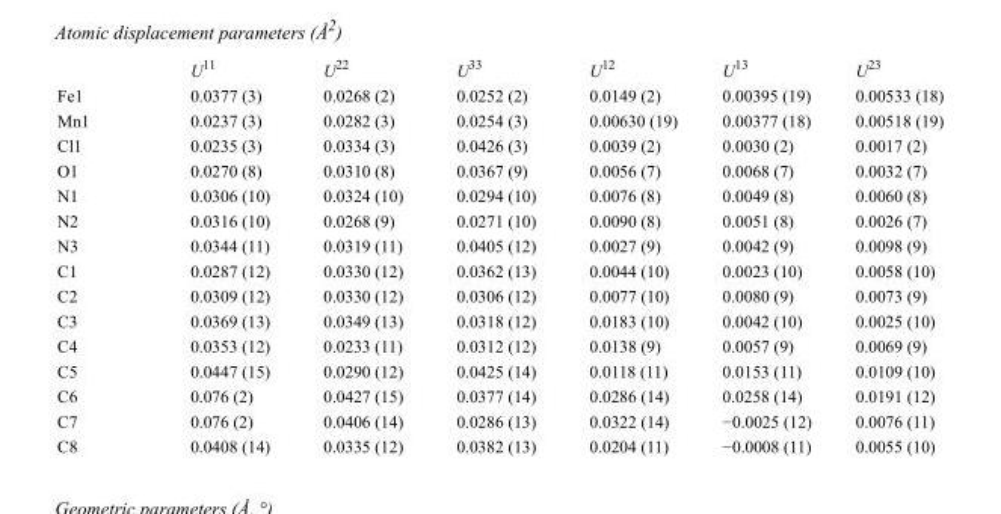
<table><thead><tr><td></td><td>U<sup>11</sup></td><td>U<sup>22</sup></td><td>U<sup>33</sup></td><td>U<sup>12</sup></td><td>U<sup>13</sup></td><td>U<sup>23</sup></td></tr></thead><tbody><tr><td>Fe1</td><td>0.0377 (3)</td><td>0.0268 (2)</td><td>0.0252 (2)</td><td>0.0149 (2)</td><td>0.00395 (19)</td><td>0.00533 (18)</td></tr><tr><td>Mn1</td><td>0.0237 (3)</td><td>0.0282 (3)</td><td>0.0254 (3)</td><td>0.00630 (19)</td><td>0.00377 (18)</td><td>0.00518 (19)</td></tr><tr><td>Cl1</td><td>0.0235 (3)</td><td>0.0334 (3)</td><td>0.0426 (3)</td><td>0.0039 (2)</td><td>0.0030 (2)</td><td>0.0017 (2)</td></tr><tr><td>O1</td><td>0.0270 (8)</td><td>0.0310 (8)</td><td>0.0367 (9)</td><td>0.0056 (7)</td><td>0.0068 (7)</td><td>0.0032 (7)</td></tr><tr><td>N1</td><td>0.0306 (10)</td><td>0.0324 (10)</td><td>0.0294 (10)</td><td>0.0076 (8)</td><td>0.0049 (8)</td><td>0.0060 (8)</td></tr><tr><td>N2</td><td>0.0316 (10)</td><td>0.0268 (9)</td><td>0.0271 (10)</td><td>0.0090 (8)</td><td>0.0051 (8)</td><td>0.0026 (7)</td></tr><tr><td>N3</td><td>0.0344 (11)</td><td>0.0319 (11)</td><td>0.0405 (12)</td><td>0.0027 (9)</td><td>0.0042 (9)</td><td>0.0098 (9)</td></tr><tr><td>C1</td><td>0.0287 (12)</td><td>0.0330 (12)</td><td>0.0362 (13)</td><td>0.0044 (10)</td><td>0.0023 (10)</td><td>0.0058 (10)</td></tr><tr><td>C2</td><td>0.0309 (12)</td><td>0.0330 (12)</td><td>0.0306 (12)</td><td>0.0077 (10)</td><td>0.0080 (9)</td><td>0.0073 (9)</td></tr><tr><td>C3</td><td>0.0369 (13)</td><td>0.0349 (13)</td><td>0.0318 (12)</td><td>0.0183 (10)</td><td>0.0042 (10)</td><td>0.0025 (10)</td></tr><tr><td>C4</td><td>0.0353 (12)</td><td>0.0233 (11)</td><td>0.0312 (12)</td><td>0.0138 (9)</td><td>0.0057 (9)</td><td>0.0069 (9)</td></tr><tr><td>C5</td><td>0.0447 (15)</td><td>0.0290 (12)</td><td>0.0425 (14)</td><td>0.0118 (11)</td><td>0.0153 (11)</td><td>0.0109 (10)</td></tr><tr><td>C6</td><td>0.076 (2)</td><td>0.0427 (15)</td><td>0.0377 (14)</td><td>0.0286 (14)</td><td>0.0258 (14)</td><td>0.0191 (12)</td></tr><tr><td>C7</td><td>0.076 (2)</td><td>0.0406 (14)</td><td>0.0286 (13)</td><td>0.0322 (14)</td><td>−0.0025 (12)</td><td>0.0076 (11)</td></tr><tr><td>C8</td><td>0.0408 (14)</td><td>0.0335 (12)</td><td>0.0382 (13)</td><td>0.0204 (11)</td><td>−0.0008 (11)</td><td>0.0055 (10)</td></tr></tbody></table>